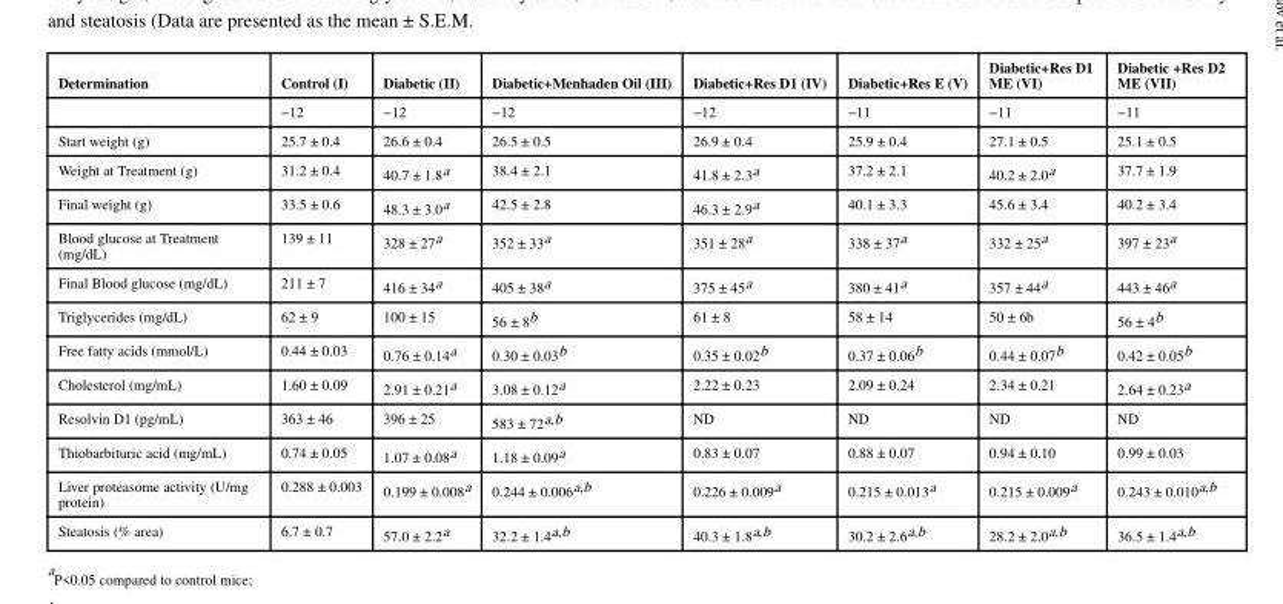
<table><thead><tr><td>Determination</td><td>Control (I)</td><td>Diabetic (II)</td><td>Diabetic+Menhaden Oil (III)</td><td>Diabetic+Res D1 (IV)</td><td>Diabetic+Res E (V)</td><td>Diabetic+Res D1 ME (VI)</td><td>Diabetic +Res D2 ME (VII)</td></tr></thead><tbody><tr><td></td><td>−12</td><td>−12</td><td>−12</td><td>−12</td><td>−11</td><td>−11</td><td>−11</td></tr><tr><td>Start weight (g)</td><td>25.7 ± 0.4</td><td>26.6 ± 0.4</td><td>26.5 ± 0.5</td><td>26.9 ± 0.4</td><td>25.9 ± 0.4</td><td>27.1 ± 0.5</td><td>25.1 ± 0.5</td></tr><tr><td>Weight at Treatment (g)</td><td>31.2 ± 0.4</td><td>40.7 ± 1.8<sup>a</sup></td><td>38.4 ± 2.1</td><td>41.8 ± 2.3<sup>a</sup></td><td>37.2 ± 2.1</td><td>40.2 ± 2.0<sup>a</sup></td><td>37.7 ± 1.9</td></tr><tr><td>Final weight (g)</td><td>33.5 ± 0.6</td><td>48.3 ± 3.0<sup>a</sup></td><td>42.5 ± 2.8</td><td>46.3 ± 2.9<sup>a</sup></td><td>40.1 ± 3.3</td><td>45.6 ± 3.4</td><td>40.2 ± 3.4</td></tr><tr><td>Blood glucose at Treatment (mg/dL)</td><td>139 ± 11</td><td>328 ± 27<sup>a</sup></td><td>352 ± 33<sup>a</sup></td><td>351 ± 28<sup>a</sup></td><td>338 ± 37<sup>a</sup></td><td>332 ± 25<sup>a</sup></td><td>397 ± 23<sup>a</sup></td></tr><tr><td>Final Blood glucose (mg/dL)</td><td>211 ± 7</td><td>416 ± 34<sup>a</sup></td><td>405 ± 38<sup>a</sup></td><td>375 ± 45<sup>a</sup></td><td>380 ± 41<sup>a</sup></td><td>357 ± 44<sup>a</sup></td><td>443 ± 46<sup>a</sup></td></tr><tr><td>Triglycerides (mg/dL)</td><td>62 ± 9</td><td>100 ± 15</td><td>56 ± 8<sup>b</sup></td><td>61 ± 8</td><td>58 ± 14</td><td>50 ± 6b</td><td>56 ± 4<sup>b</sup></td></tr><tr><td>Free fatty acids (mmol/L)</td><td>0.44 ± 0.03</td><td>0.76 ± 0.14<sup>a</sup></td><td>0.30 ± 0.03<sup>b</sup></td><td>0.35 ± 0.02<sup>b</sup></td><td>0.37 ± 0.06<sup>b</sup></td><td>0.44 ± 0.07<sup>b</sup></td><td>0.42 ± 0.05<sup>b</sup></td></tr><tr><td>Cholesterol (mg/mL)</td><td>1.60 ± 0.09</td><td>2.91 ± 0.21<sup>a</sup></td><td>3.08 ± 0.12<sup>a</sup></td><td>2.22 ± 0.23</td><td>2.09 ± 0.24</td><td>2.34 ± 0.21</td><td>2.64 ± 0.23<sup>a</sup></td></tr><tr><td>Resolvin D1 (pg/mL)</td><td>363 ± 46</td><td>396 ± 25</td><td>583 ± 72<sup>a</sup>,<sup>b</sup></td><td>ND</td><td>ND</td><td>ND</td><td>ND</td></tr><tr><td>Thiobarbituric acid (mg/mL)</td><td>0.74 ± 0.05</td><td>1.07 ± 0.08<sup>a</sup></td><td>1.18 ± 0.09<sup>a</sup></td><td>0.83 ± 0.07</td><td>0.88 ± 0.07</td><td>0.94 ± 0.10</td><td>0.99 ± 0.03</td></tr><tr><td>Liver proteasome activity (U/mg protein)</td><td>0.288 ± 0.003</td><td>0.199 ± 0.008<sup>a</sup></td><td>0.244 ± 0.006<sup>a</sup>,<sup>b</sup></td><td>0.226 ± 0.009<sup>a</sup></td><td>0.215 ± 0.013<sup>a</sup></td><td>0.215 ± 0.009<sup>a</sup></td><td>0.243 ± 0.010<sup>a</sup>,<sup>b</sup></td></tr><tr><td>Steatosis (% area)</td><td>6.7 ± 0.7</td><td>57.0 ± 2.2<sup>a</sup></td><td>32.2 ± 1.4<sup>a</sup>,<sup>b</sup></td><td>40.3 ± 1.8<sup>a</sup>,<sup>b</sup></td><td>30.2 ± 2.6<sup>a</sup>,<sup>b</sup></td><td>28.2 ± 2.0<sup>a</sup>,<sup>b</sup></td><td>36.5 ± 1.4<sup>a</sup>,<sup>b</sup></td></tr></tbody></table>